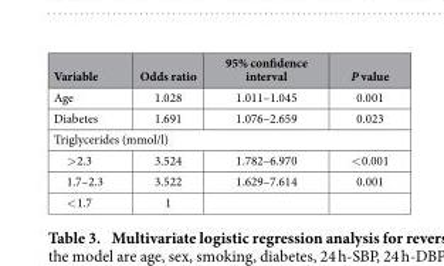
<table><thead><tr><td>Variable</td><td>Odds ratio</td><td>95% confidence interval</td><td>P value</td></tr></thead><tbody><tr><td>Age</td><td>1.028</td><td>1.011–1.045</td><td>0.001</td></tr><tr><td>Diabetes</td><td>1.691</td><td>1.076–2.659</td><td>0.023</td></tr><tr><td colspan="4">Triglycerides (mmol/l)</td></tr><tr><td>&gt; 2.3</td><td>3.524</td><td>1.782–6.970</td><td>&lt; 0.001</td></tr><tr><td>1.7–2.3</td><td>3.522</td><td>1.629–7.614</td><td>0.001</td></tr><tr><td>&lt; 1.7</td><td>1</td><td></td><td></td></tr></tbody></table>